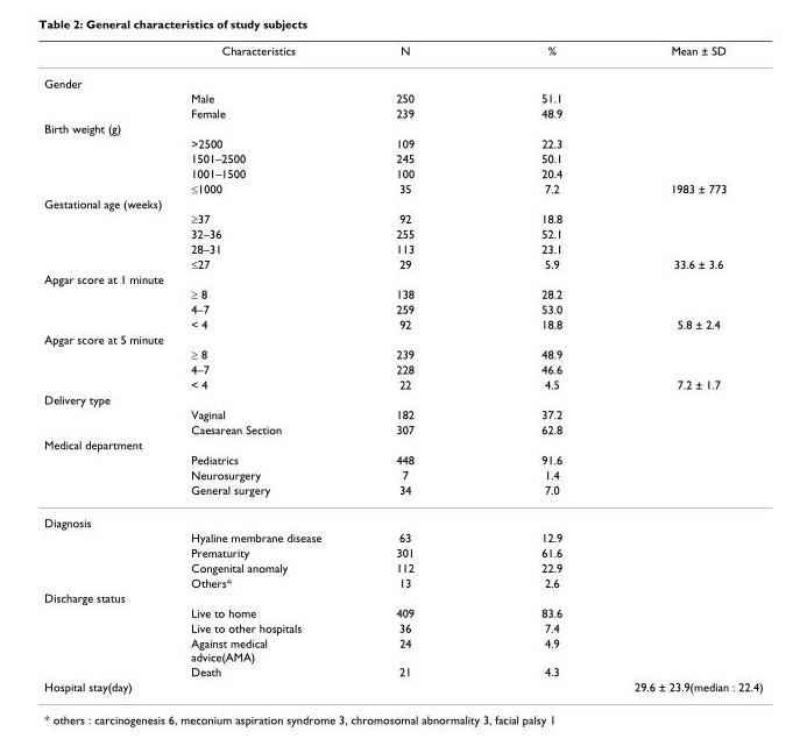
<table><thead><tr><td></td><td>Characteristics</td><td>N</td><td>%</td><td>Mean ± SD</td></tr></thead><tbody><tr><td colspan="5">Gender</td></tr><tr><td></td><td>Male</td><td>250</td><td>51.1</td><td></td></tr><tr><td></td><td>Female</td><td>239</td><td>48.9</td><td></td></tr><tr><td colspan="5">Birth weight (g)</td></tr><tr><td></td><td>&gt;2500</td><td>109</td><td>22.3</td><td></td></tr><tr><td></td><td>1501–2500</td><td>245</td><td>50.1</td><td></td></tr><tr><td></td><td>1001–1500</td><td>100</td><td>20.4</td><td></td></tr><tr><td></td><td>≤1000</td><td>35</td><td>7.2</td><td>1983 ± 773</td></tr><tr><td colspan="5">Gestational age (weeks)</td></tr><tr><td></td><td>≥37</td><td>92</td><td>18.8</td><td></td></tr><tr><td></td><td>32–36</td><td>255</td><td>52.1</td><td></td></tr><tr><td></td><td>28–31</td><td>113</td><td>23.1</td><td></td></tr><tr><td></td><td>≤27</td><td>29</td><td>5.9</td><td>33.6 ± 3.6</td></tr><tr><td colspan="5">Apgar score at 1 minute</td></tr><tr><td></td><td>≥ 8</td><td>138</td><td>28.2</td><td></td></tr><tr><td></td><td>4–7</td><td>259</td><td>53.0</td><td></td></tr><tr><td></td><td>&lt; 4</td><td>92</td><td>18.8</td><td>5.8 ± 2.4</td></tr><tr><td colspan="5">Apgar score at 5 minute</td></tr><tr><td></td><td>≥ 8</td><td>239</td><td>48.9</td><td></td></tr><tr><td></td><td>4–7</td><td>228</td><td>46.6</td><td></td></tr><tr><td></td><td>&lt; 4</td><td>22</td><td>4.5</td><td>7.2 ± 1.7</td></tr><tr><td colspan="5">Delivery type</td></tr><tr><td></td><td>Vaginal</td><td>182</td><td>37.2</td><td></td></tr><tr><td></td><td>Caesarean Section</td><td>307</td><td>62.8</td><td></td></tr><tr><td colspan="5">Medical department</td></tr><tr><td></td><td>Pediatrics</td><td>448</td><td>91.6</td><td></td></tr><tr><td></td><td>Neurosurgery</td><td>7</td><td>1.4</td><td></td></tr><tr><td></td><td>General surgery</td><td>34</td><td>7.0</td><td></td></tr><tr><td colspan="5">Diagnosis</td></tr><tr><td></td><td>Hyaline membrane disease</td><td>63</td><td>12.9</td><td></td></tr><tr><td></td><td>Prematurity</td><td>301</td><td>61.6</td><td></td></tr><tr><td></td><td>Congenital anomaly</td><td>112</td><td>22.9</td><td></td></tr><tr><td></td><td>Others*</td><td>13</td><td>2.6</td><td></td></tr><tr><td colspan="5">Discharge status</td></tr><tr><td></td><td>Live to home</td><td>409</td><td>83.6</td><td></td></tr><tr><td></td><td>Live to other hospitals</td><td>36</td><td>7.4</td><td></td></tr><tr><td></td><td>Against medical advice(AMA)</td><td>24</td><td>4.9</td><td></td></tr><tr><td></td><td>Death</td><td>21</td><td>4.3</td><td></td></tr><tr><td>Hospital stay(day)</td><td></td><td></td><td></td><td>29.6 ± 23.9(median : 22.4)</td></tr></tbody></table>